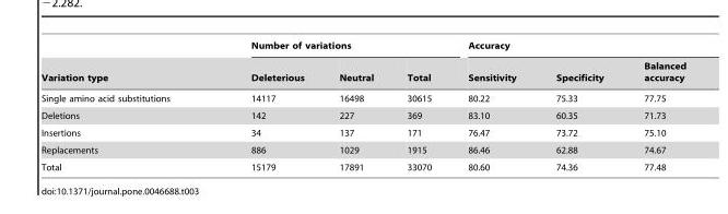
<table><thead><tr><td rowspan="2">Variation type</td><td colspan="3">Number of variations</td><td colspan="3">Accuracy</td></tr><tr><td>Deleterious</td><td>Neutral</td><td>Total</td><td>Sensitivity</td><td>Specificity</td><td>Balanced accuracy</td></tr></thead><tbody><tr><td>Single amino acid substitutions</td><td>14117</td><td>16498</td><td>30615</td><td>80.22</td><td>75.33</td><td>77.75</td></tr><tr><td>Deletions</td><td>142</td><td>227</td><td>369</td><td>83.10</td><td>60.35</td><td>71.73</td></tr><tr><td>Insertions</td><td>34</td><td>137</td><td>171</td><td>76.47</td><td>73.72</td><td>75.10</td></tr><tr><td>Replacements</td><td>886</td><td>1029</td><td>1915</td><td>86.46</td><td>62.88</td><td>74.67</td></tr><tr><td>Total</td><td>15179</td><td>17891</td><td>33070</td><td>80.60</td><td>74.36</td><td>77.48</td></tr></tbody></table>